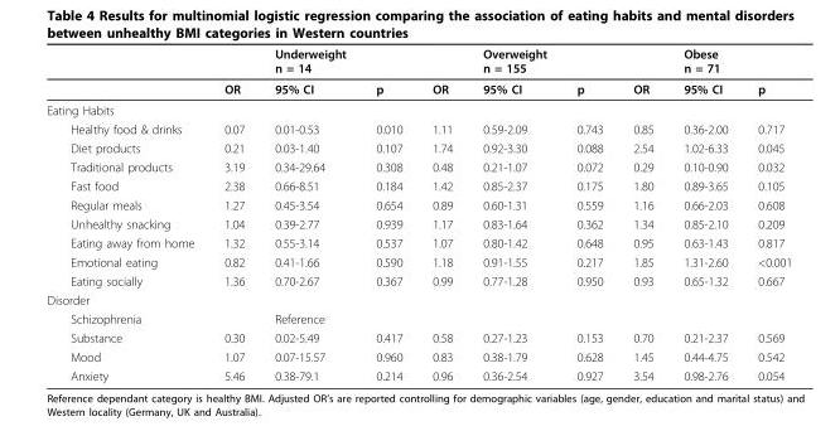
<table><thead><tr><td></td><td></td><td>Underweight n = 14</td><td></td><td></td><td>Overweight n = 155</td><td></td><td></td><td>Obese n = 71</td><td></td></tr></thead><tbody><tr><td></td><td>OR</td><td>95% CI</td><td>p</td><td>OR</td><td>95% CI</td><td>p</td><td>OR</td><td>95% CI</td><td>p</td></tr><tr><td colspan="10">Eating Habits</td></tr><tr><td>Healthy food &amp; drinks</td><td>0.07</td><td>0.01-0.53</td><td>0.010</td><td>1.11</td><td>0.59-2.09</td><td>0.743</td><td>0.85</td><td>0.36-2.00</td><td>0.717</td></tr><tr><td>Diet products</td><td>0.21</td><td>0.03-1.40</td><td>0.107</td><td>1.74</td><td>0.92-3.30</td><td>0.088</td><td>2.54</td><td>1.02-6.33</td><td>0.045</td></tr><tr><td>Traditional products</td><td>3.19</td><td>0.34-29.64</td><td>0.308</td><td>0.48</td><td>0.21-1.07</td><td>0.072</td><td>0.29</td><td>0.10-0.90</td><td>0.032</td></tr><tr><td>Fast food</td><td>2.38</td><td>0.66-8.51</td><td>0.184</td><td>1.42</td><td>0.85-2.37</td><td>0.175</td><td>1.80</td><td>0.89-3.65</td><td>0.105</td></tr><tr><td>Regular meals</td><td>1.27</td><td>0.45-3.54</td><td>0.654</td><td>0.89</td><td>0.60-1.31</td><td>0.559</td><td>1.16</td><td>0.66-2.03</td><td>0.608</td></tr><tr><td>Unhealthy snacking</td><td>1.04</td><td>0.39-2.77</td><td>0.939</td><td>1.17</td><td>0.83-1.64</td><td>0.362</td><td>1.34</td><td>0.85-2.10</td><td>0.209</td></tr><tr><td>Eating away from home</td><td>1.32</td><td>0.55-3.14</td><td>0.537</td><td>1.07</td><td>0.80-1.42</td><td>0.648</td><td>0.95</td><td>0.63-1.43</td><td>0.817</td></tr><tr><td>Emotional eating</td><td>0.82</td><td>0.41-1.66</td><td>0.590</td><td>1.18</td><td>0.91-1.55</td><td>0.217</td><td>1.85</td><td>1.31-2.60</td><td>&lt;0.001</td></tr><tr><td>Eating socially</td><td>1.36</td><td>0.70-2.67</td><td>0.367</td><td>0.99</td><td>0.77-1.28</td><td>0.950</td><td>0.93</td><td>0.65-1.32</td><td>0.667</td></tr><tr><td colspan="10">Disorder</td></tr><tr><td>Schizophrenia</td><td></td><td>Reference</td><td></td><td></td><td></td><td></td><td></td><td></td><td></td></tr><tr><td>Substance</td><td>0.30</td><td>0.02-5.49</td><td>0.417</td><td>0.58</td><td>0.27-1.23</td><td>0.153</td><td>0.70</td><td>0.21-2.37</td><td>0.569</td></tr><tr><td>Mood</td><td>1.07</td><td>0.07-15.57</td><td>0.960</td><td>0.83</td><td>0.38-1.79</td><td>0.628</td><td>1.45</td><td>0.44-4.75</td><td>0.542</td></tr><tr><td>Anxiety</td><td>5.46</td><td>0.38-79.1</td><td>0.214</td><td>0.96</td><td>0.36-2.54</td><td>0.927</td><td>3.54</td><td>0.98-2.76</td><td>0.054</td></tr></tbody></table>